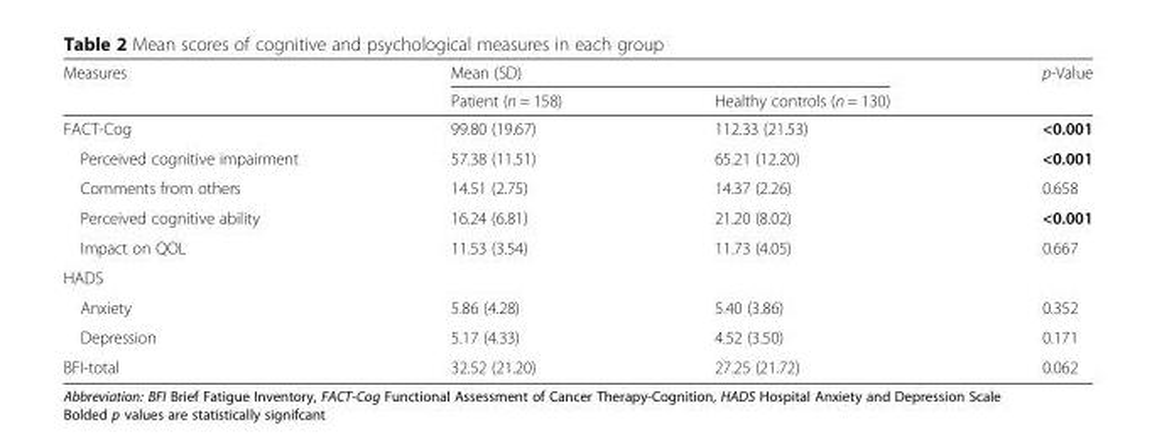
<table><thead><tr><td rowspan="2">Measures</td><td colspan="2">Mean (SD)</td><td rowspan="2">p-Value</td></tr><tr><td>Patient (n = 158)</td><td>Healthy controls (n = 130)</td></tr></thead><tbody><tr><td>FACT-Cog</td><td>99.80 (19.67)</td><td>112.33 (21.53)</td><td>&lt;0.001</td></tr><tr><td>Perceived cognitive impairment</td><td>57.38 (11.51)</td><td>65.21 (12.20)</td><td>&lt;0.001</td></tr><tr><td>Comments from others</td><td>14.51 (2.75)</td><td>14.37 (2.26)</td><td>0.658</td></tr><tr><td>Perceived cognitive ability</td><td>16.24 (6.81)</td><td>21.20 (8.02)</td><td>&lt;0.001</td></tr><tr><td>Impact on QOL</td><td>11.53 (3.54)</td><td>11.73 (4.05)</td><td>0.667</td></tr><tr><td colspan="4">HADS</td></tr><tr><td>Anxiety</td><td>5.86 (4.28)</td><td>5.40 (3.86)</td><td>0.352</td></tr><tr><td>Depression</td><td>5.17 (4.33)</td><td>4.52 (3.50)</td><td>0.171</td></tr><tr><td>BFI-total</td><td>32.52 (21.20)</td><td>27.25 (21.72)</td><td>0.062</td></tr></tbody></table>